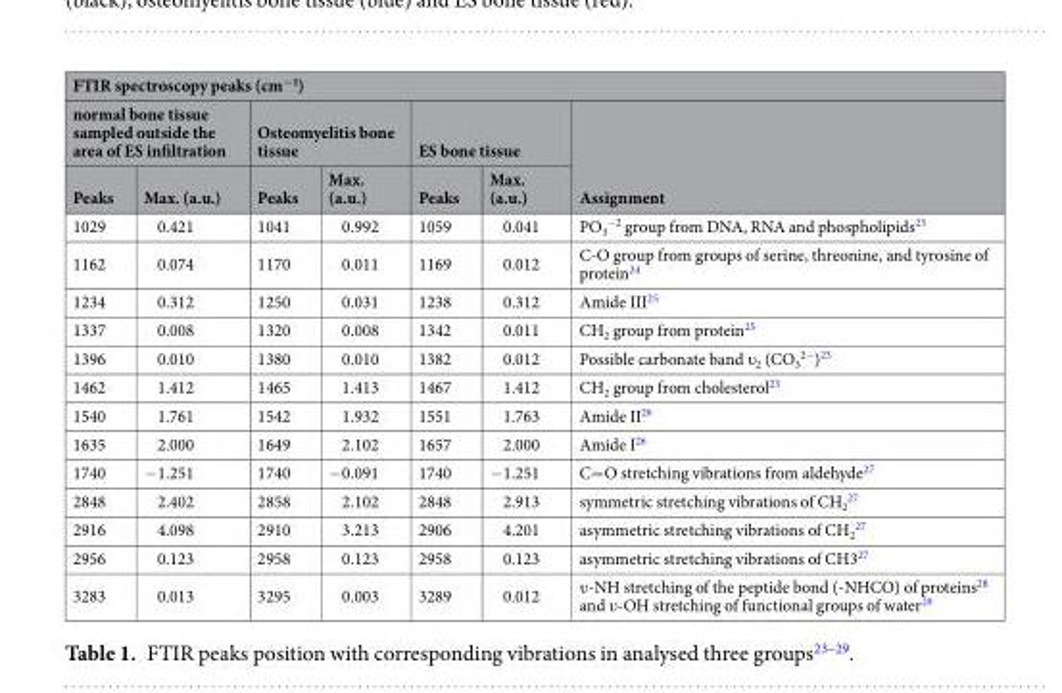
<table><thead><tr><td colspan="7">FTIR spectroscopy peaks (cm<sup>−1</sup>)</td></tr><tr><td colspan="2">normal bone tissue sampled outside the area of ES infiltration</td><td colspan="2">Osteomyelitis bone tissue</td><td colspan="2">ES bone tissue</td><td rowspan="2">Assignment</td></tr><tr><td>Peaks</td><td>Max. (a.u.)</td><td>Peaks</td><td>Max. (a.u.)</td><td>Peaks</td><td>Max. (a.u.)</td></tr></thead><tbody><tr><td>1029</td><td>0.421</td><td>1041</td><td>0.992</td><td>1059</td><td>0.041</td><td>PO<sub>3</sub> <sup>−2</sup> group from DNA, RNA and phospholipids<sup>23</sup></td></tr><tr><td>1162</td><td>0.074</td><td>1170</td><td>0.011</td><td>1169</td><td>0.012</td><td>C-O group from groups of serine, threonine, and tyrosine of protein<sup>24</sup></td></tr><tr><td>1234</td><td>0.312</td><td>1250</td><td>0.031</td><td>1238</td><td>0.312</td><td>Amide III<sup>25</sup></td></tr><tr><td>1337</td><td>0.008</td><td>1320</td><td>0.008</td><td>1342</td><td>0.011</td><td>CH<sub>2</sub> group from protein<sup>25</sup></td></tr><tr><td>1396</td><td>0.010</td><td>1380</td><td>0.010</td><td>1382</td><td>0.012</td><td>Possible carbonate band ʋ<sub>2</sub> (CO<sub>3</sub> <sup>2−</sup>)<sup>23</sup></td></tr><tr><td>1462</td><td>1.412</td><td>1465</td><td>1.413</td><td>1467</td><td>1.412</td><td>CH<sub>2</sub> group from cholesterol<sup>23</sup></td></tr><tr><td>1540</td><td>1.761</td><td>1542</td><td>1.932</td><td>1551</td><td>1.763</td><td>Amide II<sup>26</sup></td></tr><tr><td>1635</td><td>2.000</td><td>1649</td><td>2.102</td><td>1657</td><td>2.000</td><td>Amide I<sup>26</sup></td></tr><tr><td>1740</td><td>−1.251</td><td>1740</td><td>−0.091</td><td>1740</td><td>−1.251</td><td>C=O stretching vibrations from aldehyde<sup>27</sup></td></tr><tr><td>2848</td><td>2.402</td><td>2858</td><td>2.102</td><td>2848</td><td>2.913</td><td>symmetric stretching vibrations of CH<sub>2</sub> <sup>27</sup></td></tr><tr><td>2916</td><td>4.098</td><td>2910</td><td>3.213</td><td>2906</td><td>4.201</td><td>asymmetric stretching vibrations of CH<sub>2</sub> <sup>27</sup></td></tr><tr><td>2956</td><td>0.123</td><td>2958</td><td>0.123</td><td>2958</td><td>0.123</td><td>asymmetric stretching vibrations of CH3<sup>27</sup></td></tr><tr><td>3283</td><td>0.013</td><td>3295</td><td>0.003</td><td>3289</td><td>0.012</td><td>ʋ-NH stretching of the peptide bond (-NHCO) of proteins<sup>28</sup> and ʋ-OH stretching of functional groups of water<sup>29</sup></td></tr></tbody></table>